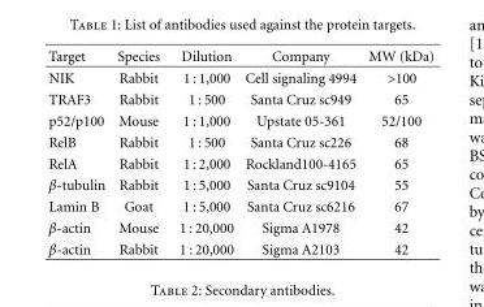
<table><thead><tr><td>Target</td><td>Species</td><td>Dilution</td><td>Company</td><td>MW (kDa)</td></tr></thead><tbody><tr><td>NIK</td><td>Rabbit</td><td>1 : 1,000</td><td>Cell signaling 4994</td><td>&gt;100</td></tr><tr><td>TRAF3</td><td>Rabbit</td><td>1 : 500</td><td>Santa Cruz sc949</td><td>65</td></tr><tr><td>p52/p100</td><td>Mouse</td><td>1 : 1,000</td><td>Upstate 05-361</td><td>52/100</td></tr><tr><td>RelB</td><td>Rabbit</td><td>1 : 500</td><td>Santa Cruz sc226</td><td>68</td></tr><tr><td>RelA</td><td>Rabbit</td><td>1 : 2,000</td><td>Rockland100-4165</td><td>65</td></tr><tr><td>β-tubulin</td><td>Rabbit</td><td>1 : 5,000</td><td>Santa Cruz sc9104</td><td>55</td></tr><tr><td>Lamin B</td><td>Goat</td><td>1 : 5,000</td><td>Santa Cruz sc6216</td><td>67</td></tr><tr><td>β-actin</td><td>Mouse</td><td>1 : 20,000</td><td>Sigma A1978</td><td>42</td></tr><tr><td>β-actin</td><td>Rabbit</td><td>1 : 20,000</td><td>Sigma A2103</td><td>42</td></tr></tbody></table>